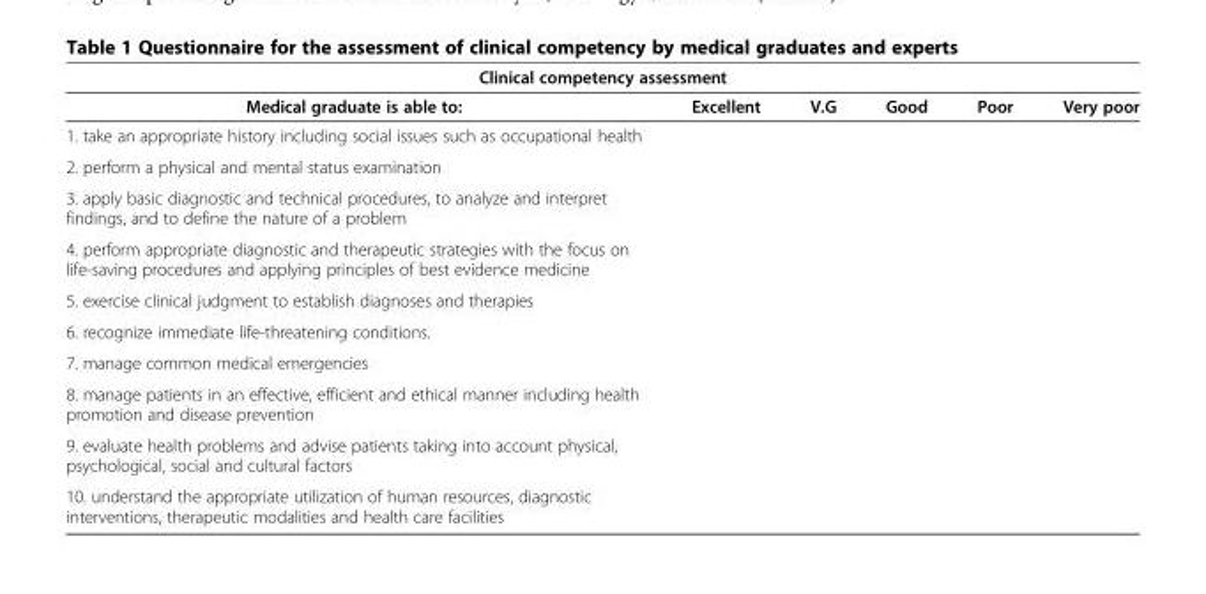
<table><thead><tr><td colspan="6">Clinical competency assessment</td></tr><tr><td>Medical graduate is able to:</td><td>Excellent</td><td>V.G</td><td>Good</td><td>Poor</td><td>Very poor</td></tr></thead><tbody><tr><td colspan="6">1. take an appropriate history including social issues such as occupational health</td></tr><tr><td colspan="6">2. perform a physical and mental status examination</td></tr><tr><td colspan="6">3. apply basic diagnostic and technical procedures, to analyze and interpret findings, and to define the nature of a problem</td></tr><tr><td colspan="6">4. perform appropriate diagnostic and therapeutic strategies with the focus on life-saving procedures and applying principles of best evidence medicine</td></tr><tr><td colspan="6">5. exercise clinical judgment to establish diagnoses and therapies</td></tr><tr><td colspan="6">6. recognize immediate life-threatening conditions.</td></tr><tr><td colspan="6">7. manage common medical emergencies</td></tr><tr><td colspan="6">8. manage patients in an effective, efficient and ethical manner including health promotion and disease prevention</td></tr><tr><td colspan="6">9. evaluate health problems and advise patients taking into account physical, psychological, social and cultural factors</td></tr><tr><td>10. understand the appropriate utilization of human resources, diagnostic interventions, therapeutic modalities and health care facilities</td><td></td><td></td><td></td><td></td><td></td></tr></tbody></table>